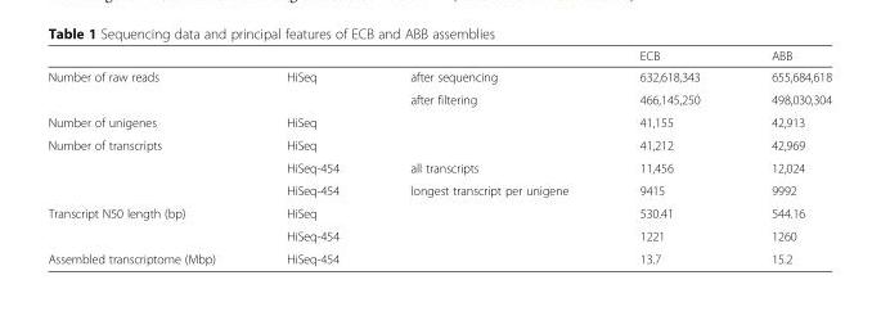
<table><thead><tr><td></td><td></td><td></td><td>ECB</td><td>ABB</td></tr></thead><tbody><tr><td rowspan="2">Number of raw reads</td><td rowspan="2">HiSeq</td><td>after sequencing</td><td>632,618,343</td><td>655,684,618</td></tr><tr><td>after filtering</td><td>466,145,250</td><td>498,030,304</td></tr><tr><td>Number of unigenes</td><td>HiSeq</td><td></td><td>41,155</td><td>42,913</td></tr><tr><td rowspan="3">Number of transcripts</td><td>HiSeq</td><td></td><td>41,212</td><td>42,969</td></tr><tr><td>HiSeq-454</td><td>all transcripts</td><td>11,456</td><td>12,024</td></tr><tr><td>HiSeq-454</td><td>longest transcript per unigene</td><td>9415</td><td>9992</td></tr><tr><td rowspan="2">Transcript N50 length (bp)</td><td>HiSeq</td><td></td><td>530.41</td><td>544.16</td></tr><tr><td>HiSeq-454</td><td></td><td>1221</td><td>1260</td></tr><tr><td>Assembled transcriptome (Mbp)</td><td>HiSeq-454</td><td></td><td>13.7</td><td>15.2</td></tr></tbody></table>